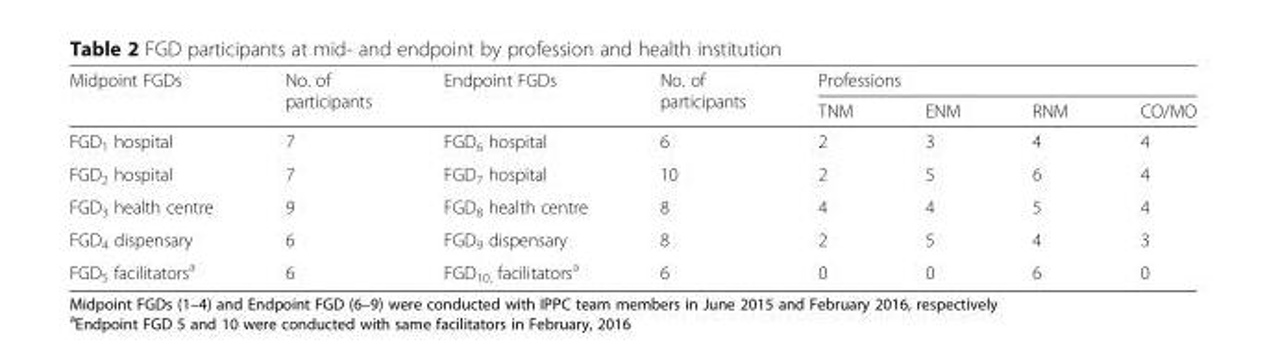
<table><thead><tr><td rowspan="2">Midpoint FGDs</td><td rowspan="2">No. of participants</td><td rowspan="2">Endpoint FGDs</td><td rowspan="2">No. of participants</td><td colspan="4">Professions</td></tr><tr><td>TNM</td><td>ENM</td><td>RNM</td><td>CO/MO</td></tr></thead><tbody><tr><td>FGD<sub>1</sub> hospital</td><td>7</td><td>FGD<sub>6</sub> hospital</td><td>6</td><td>2</td><td>3</td><td>4</td><td>4</td></tr><tr><td>FGD<sub>2</sub> hospital</td><td>7</td><td>FGD<sub>7</sub> hospital</td><td>10</td><td>2</td><td>5</td><td>6</td><td>4</td></tr><tr><td>FGD<sub>3</sub> health centre</td><td>9</td><td>FGD<sub>8</sub> health centre</td><td>8</td><td>4</td><td>4</td><td>5</td><td>4</td></tr><tr><td>FGD<sub>4</sub> dispensary</td><td>6</td><td>FGD<sub>9</sub> dispensary</td><td>8</td><td>2</td><td>5</td><td>4</td><td>3</td></tr><tr><td>FGD<sub>5</sub> facilitators<sup>a</sup></td><td>6</td><td>FGD<sub>10,</sub> facilitators<sup>a</sup></td><td>6</td><td>0</td><td>0</td><td>6</td><td>0</td></tr></tbody></table>